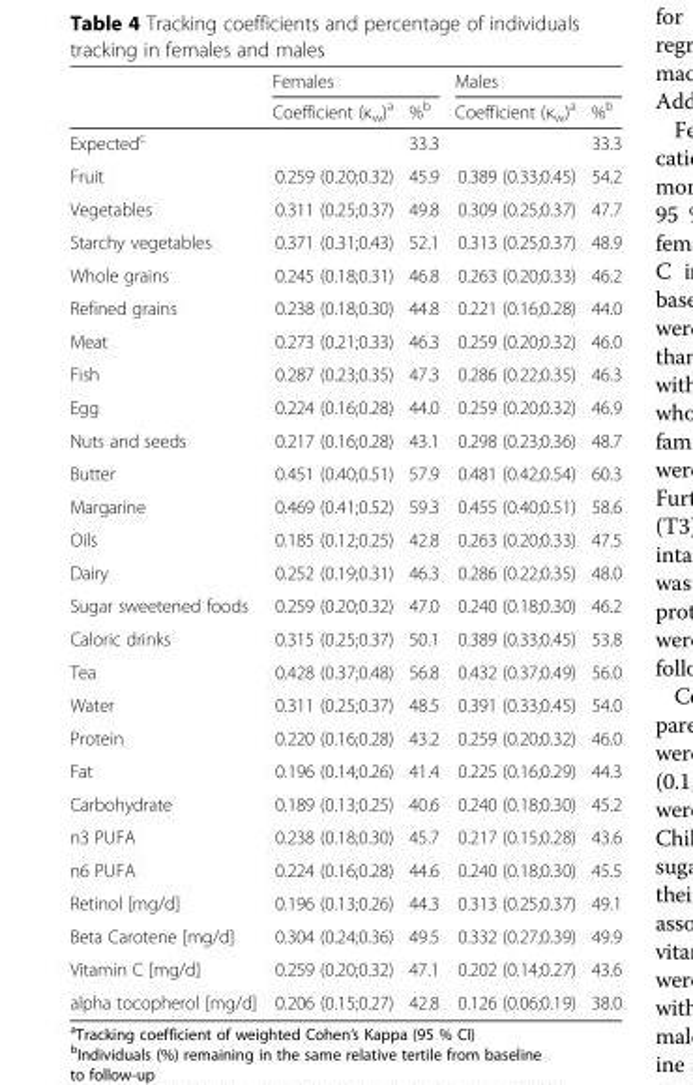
<table><thead><tr><td rowspan="2"></td><td colspan="2">Females</td><td colspan="2">Males</td></tr><tr><td>Coefficient (κ<sub>w</sub>)<sup>a</sup></td><td>%<sup>b</sup></td><td>Coefficient (κ<sub>w</sub>)<sup>a</sup></td><td>%<sup>b</sup></td></tr></thead><tbody><tr><td>Expected<sup>c</sup></td><td></td><td>33.3</td><td></td><td>33.3</td></tr><tr><td>Fruit</td><td>0.259 (0.20;0.32)</td><td>45.9</td><td>0.389 (0.33;0.45)</td><td>54.2</td></tr><tr><td>Vegetables</td><td>0.311 (0.25;0.37)</td><td>49.8</td><td>0.309 (0.25;0.37)</td><td>47.7</td></tr><tr><td>Starchy vegetables</td><td>0.371 (0.31;0.43)</td><td>52.1</td><td>0.313 (0.25;0.37)</td><td>48.9</td></tr><tr><td>Whole grains</td><td>0.245 (0.18;0.31)</td><td>46.8</td><td>0.263 (0.20;0.33)</td><td>46.2</td></tr><tr><td>Refined grains</td><td>0.238 (0.18;0.30)</td><td>44.8</td><td>0.221 (0.16;0.28)</td><td>44.0</td></tr><tr><td>Meat</td><td>0.273 (0.21;0.33)</td><td>46.3</td><td>0.259 (0.20;0.32)</td><td>46.0</td></tr><tr><td>Fish</td><td>0.287 (0.23;0.35)</td><td>47.3</td><td>0.286 (0.22;0.35)</td><td>46.3</td></tr><tr><td>Egg</td><td>0.224 (0.16;0.28)</td><td>44.0</td><td>0.259 (0.20;0.32)</td><td>46.9</td></tr><tr><td>Nuts and seeds</td><td>0.217 (0.16;0.28)</td><td>43.1</td><td>0.298 (0.23;0.36)</td><td>48.7</td></tr><tr><td>Butter</td><td>0.451 (0.40;0.51)</td><td>57.9</td><td>0.481 (0.42;0.54)</td><td>60.3</td></tr><tr><td>Margarine</td><td>0.469 (0.41;0.52)</td><td>59.3</td><td>0.455 (0.40;0.51)</td><td>58.6</td></tr><tr><td>Oils</td><td>0.185 (0.12;0.25)</td><td>42.8</td><td>0.263 (0.20;0.33)</td><td>47.5</td></tr><tr><td>Dairy</td><td>0.252 (0.19;0.31)</td><td>46.3</td><td>0.286 (0.22;0.35)</td><td>48.0</td></tr><tr><td>Sugar sweetened foods</td><td>0.259 (0.20;0.32)</td><td>47.0</td><td>0.240 (0.18;0.30)</td><td>46.2</td></tr><tr><td>Caloric drinks</td><td>0.315 (0.25;0.37)</td><td>50.1</td><td>0.389 (0.33;0.45)</td><td>53.8</td></tr><tr><td>Tea</td><td>0.428 (0.37;0.48)</td><td>56.8</td><td>0.432 (0.37;0.49)</td><td>56.0</td></tr><tr><td>Water</td><td>0.311 (0.25;0.37)</td><td>48.5</td><td>0.391 (0.33;0.45)</td><td>54.0</td></tr><tr><td>Protein</td><td>0.220 (0.16;0.28)</td><td>43.2</td><td>0.259 (0.20;0.32)</td><td>46.0</td></tr><tr><td>Fat</td><td>0.196 (0.14;0.26)</td><td>41.4</td><td>0.225 (0.16;0.29)</td><td>44.3</td></tr><tr><td>Carbohydrate</td><td>0.189 (0.13;0.25)</td><td>40.6</td><td>0.240 (0.18;0.30)</td><td>45.2</td></tr><tr><td>n3 PUFA</td><td>0.238 (0.18;0.30)</td><td>45.7</td><td>0.217 (0.15;0.28)</td><td>43.6</td></tr><tr><td>n6 PUFA</td><td>0.224 (0.16;0.28)</td><td>44.6</td><td>0.240 (0.18;0.30)</td><td>45.5</td></tr><tr><td>Retinol [mg/d]</td><td>0.196 (0.13;0.26)</td><td>44.3</td><td>0.313 (0.25;0.37)</td><td>49.1</td></tr><tr><td>Beta Carotene [mg/d]</td><td>0.304 (0.24;0.36)</td><td>49.5</td><td>0.332 (0.27;0.39)</td><td>49.9</td></tr><tr><td>Vitamin C [mg/d]</td><td>0.259 (0.20;0.32)</td><td>47.1</td><td>0.202 (0.14;0.27)</td><td>43.6</td></tr><tr><td>alpha tocopherol [mg/d]</td><td>0.206 (0.15;0.27)</td><td>42.8</td><td>0.126 (0.06;0.19)</td><td>38.0</td></tr></tbody></table>